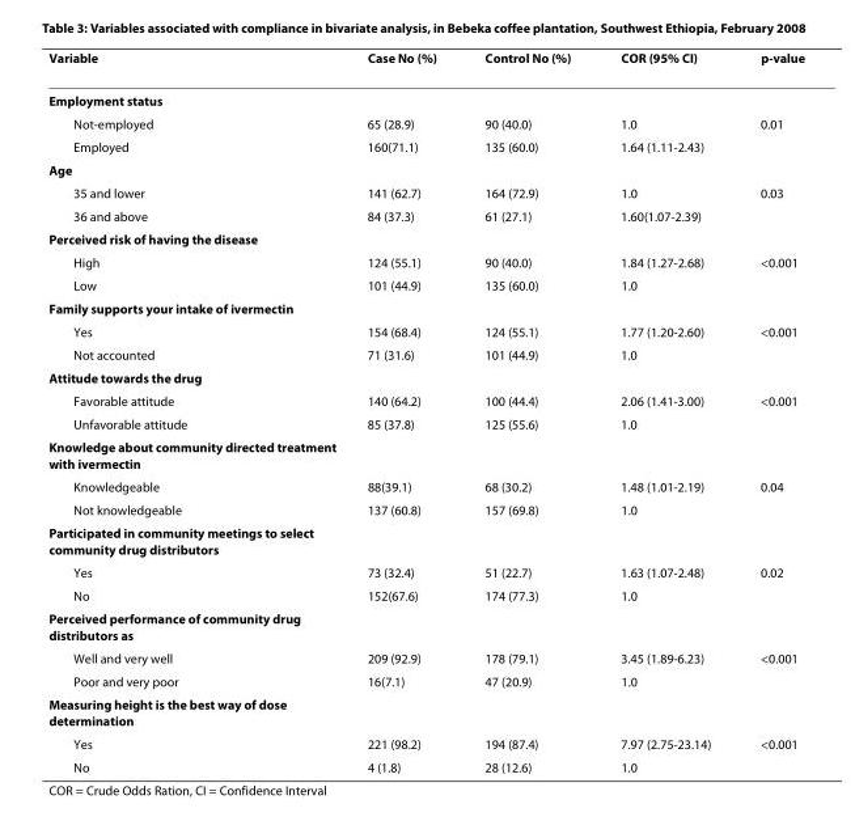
<table><thead><tr><td>Variable</td><td>Case No (%)</td><td>Control No (%)</td><td>COR (95% CI)</td><td>p-value</td></tr></thead><tbody><tr><td colspan="5">Employment status</td></tr><tr><td>Not-employed</td><td>65 (28.9)</td><td>90 (40.0)</td><td>1.0</td><td>0.01</td></tr><tr><td>Employed</td><td>160(71.1)</td><td>135 (60.0)</td><td>1.64 (1.11-2.43)</td><td></td></tr><tr><td colspan="5">Age</td></tr><tr><td>35 and lower</td><td>141 (62.7)</td><td>164 (72.9)</td><td>1.0</td><td>0.03</td></tr><tr><td>36 and above</td><td>84 (37.3)</td><td>61 (27.1)</td><td>1.60(1.07-2.39)</td><td></td></tr><tr><td colspan="5">Perceived risk of having the disease</td></tr><tr><td>High</td><td>124 (55.1)</td><td>90 (40.0)</td><td>1.84 (1.27-2.68)</td><td>&lt;0.001</td></tr><tr><td>Low</td><td>101 (44.9)</td><td>135 (60.0)</td><td>1.0</td><td></td></tr><tr><td colspan="5">Family supports your intake of ivermectin</td></tr><tr><td>Yes</td><td>154 (68.4)</td><td>124 (55.1)</td><td>1.77 (1.20-2.60)</td><td>&lt;0.001</td></tr><tr><td>Not accounted</td><td>71 (31.6)</td><td>101 (44.9)</td><td>1.0</td><td></td></tr><tr><td colspan="5">Attitude towards the drug</td></tr><tr><td>Favorable attitude</td><td>140 (64.2)</td><td>100 (44.4)</td><td>2.06 (1.41-3.00)</td><td>&lt;0.001</td></tr><tr><td>Unfavorable attitude</td><td>85 (37.8)</td><td>125 (55.6)</td><td>1.0</td><td></td></tr><tr><td colspan="5">Knowledge about community directed treatment with ivermectin</td></tr><tr><td>Knowledgeable</td><td>88(39.1)</td><td>68 (30.2)</td><td>1.48 (1.01-2.19)</td><td>0.04</td></tr><tr><td>Not knowledgeable</td><td>137 (60.8)</td><td>157 (69.8)</td><td>1.0</td><td></td></tr><tr><td colspan="5">Participated in community meetings to select community drug distributors</td></tr><tr><td>Yes</td><td>73 (32.4)</td><td>51 (22.7)</td><td>1.63 (1.07-2.48)</td><td>0.02</td></tr><tr><td>No</td><td>152(67.6)</td><td>174 (77.3)</td><td>1.0</td><td></td></tr><tr><td colspan="5">Perceived performance of community drug distributors as</td></tr><tr><td>Well and very well</td><td>209 (92.9)</td><td>178 (79.1)</td><td>3.45 (1.89-6.23)</td><td>&lt;0.001</td></tr><tr><td>Poor and very poor</td><td>16(7.1)</td><td>47 (20.9)</td><td>1.0</td><td></td></tr><tr><td colspan="5">Measuring height is the best way of dose determination</td></tr><tr><td>Yes</td><td>221 (98.2)</td><td>194 (87.4)</td><td>7.97 (2.75-23.14)</td><td>&lt;0.001</td></tr><tr><td>No</td><td>4 (1.8)</td><td>28 (12.6)</td><td>1.0</td><td></td></tr></tbody></table>